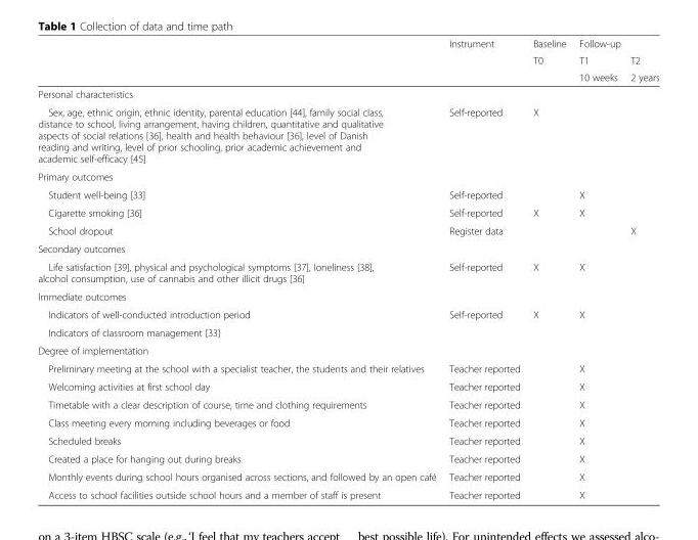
<table><thead><tr><td rowspan="3"></td><td rowspan="3">Instrument</td><td rowspan="3">Baseline T0</td><td colspan="2">Follow-up</td></tr><tr><td rowspan="2">T1 10 weeks</td><td rowspan="2">T2 2 years</td></tr><tr></tr></thead><tbody><tr><td colspan="5">Personal characteristics</td></tr><tr><td>Sex, age, ethnic origin, ethnic identity, parental education [44], family social class, distance to school, living arrangement, having children, quantitative and qualitative aspects of social relations [36], health and health behaviour [36], level of Danish reading and writing, level of prior schooling, prior academic achievement and academic self-efficacy [45]</td><td>Self-reported</td><td>X</td><td></td><td></td></tr><tr><td colspan="5">Primary outcomes</td></tr><tr><td>Student well-being [33]</td><td>Self-reported</td><td></td><td>X</td><td></td></tr><tr><td>Cigarette smoking [36]</td><td>Self-reported</td><td>X</td><td>X</td><td></td></tr><tr><td>School dropout</td><td>Register data</td><td></td><td></td><td>X</td></tr><tr><td colspan="5">Secondary outcomes</td></tr><tr><td>Life satisfaction [39], physical and psychological symptoms [37], loneliness [38], alcohol consumption, use of cannabis and other illicit drugs [36]</td><td>Self-reported</td><td>X</td><td>X</td><td></td></tr><tr><td colspan="5">Immediate outcomes</td></tr><tr><td>Indicators of well-conducted introduction period</td><td rowspan="2">Self-reported</td><td rowspan="2">X</td><td rowspan="2">X</td><td rowspan="2"></td></tr><tr><td>Indicators of classroom management [33]</td></tr><tr><td colspan="5">Degree of implementation</td></tr><tr><td>Preliminary meeting at the school with a specialist teacher, the students and their relatives</td><td>Teacher reported</td><td></td><td>X</td><td></td></tr><tr><td>Welcoming activities at first school day</td><td>Teacher reported</td><td></td><td>X</td><td></td></tr><tr><td>Timetable with a clear description of course, time and clothing requirements</td><td>Teacher reported</td><td></td><td>X</td><td></td></tr><tr><td>Class meeting every morning including beverages or food</td><td>Teacher reported</td><td></td><td>X</td><td></td></tr><tr><td>Scheduled breaks</td><td>Teacher reported</td><td></td><td>X</td><td></td></tr><tr><td>Created a place for hanging out during breaks</td><td>Teacher reported</td><td></td><td>X</td><td></td></tr><tr><td>Monthly events during school hours organised across sections, and followed by an open café</td><td>Teacher reported</td><td></td><td>X</td><td></td></tr><tr><td>Access to school facilities outside school hours and a member of staff is present</td><td>Teacher reported</td><td></td><td>X</td><td></td></tr></tbody></table>